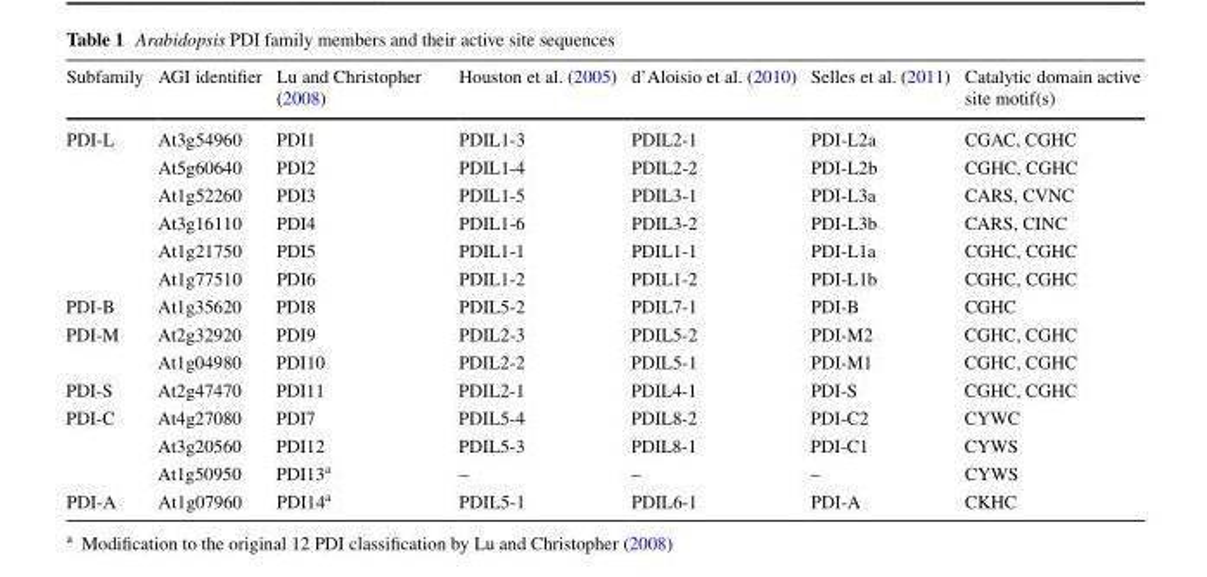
<table><thead><tr><td>Subfamily</td><td>AGI identifier</td><td>Lu and Christopher (2008)</td><td>Houston et al. (2005)</td><td>d’Aloisio et al. (2010)</td><td>Selles et al. (2011)</td><td>Catalytic domain active site motif(s)</td></tr></thead><tbody><tr><td rowspan="6">PDI-L</td><td>At3g54960</td><td>PDI1</td><td>PDIL1-3</td><td>PDIL2-1</td><td>PDI-L2a</td><td>CGAC, CGHC</td></tr><tr><td>At5g60640</td><td>PDI2</td><td>PDIL1-4</td><td>PDIL2-2</td><td>PDI-L2b</td><td>CGHC, CGHC</td></tr><tr><td>At1g52260</td><td>PDI3</td><td>PDIL1-5</td><td>PDIL3-1</td><td>PDI-L3a</td><td>CARS, CVNC</td></tr><tr><td>At3g16110</td><td>PDI4</td><td>PDIL1-6</td><td>PDIL3-2</td><td>PDI-L3b</td><td>CARS, CINC</td></tr><tr><td>At1g21750</td><td>PDI5</td><td>PDIL1-1</td><td>PDIL1-1</td><td>PDI-L1a</td><td>CGHC, CGHC</td></tr><tr><td>At1g77510</td><td>PDI6</td><td>PDIL1-2</td><td>PDIL1-2</td><td>PDI-L1b</td><td>CGHC, CGHC</td></tr><tr><td>PDI-B</td><td>At1g35620</td><td>PDI8</td><td>PDIL5-2</td><td>PDIL7-1</td><td>PDI-B</td><td>CGHC</td></tr><tr><td rowspan="2">PDI-M</td><td>At2g32920</td><td>PDI9</td><td>PDIL2-3</td><td>PDIL5-2</td><td>PDI-M2</td><td>CGHC, CGHC</td></tr><tr><td>At1g04980</td><td>PDI10</td><td>PDIL2-2</td><td>PDIL5-1</td><td>PDI-M1</td><td>CGHC, CGHC</td></tr><tr><td>PDI-S</td><td>At2g47470</td><td>PDI11</td><td>PDIL2-1</td><td>PDIL4-1</td><td>PDI-S</td><td>CGHC, CGHC</td></tr><tr><td rowspan="3">PDI-C</td><td>At4g27080</td><td>PDI7</td><td>PDIL5-4</td><td>PDIL8-2</td><td>PDI-C2</td><td>CYWC</td></tr><tr><td>At3g20560</td><td>PDI12</td><td>PDIL5-3</td><td>PDIL8-1</td><td>PDI-C1</td><td>CYWS</td></tr><tr><td>At1g50950</td><td>PDI13<sup>a</sup></td><td>–</td><td>–</td><td>–</td><td>CYWS</td></tr><tr><td>PDI-A</td><td>At1g07960</td><td>PDI14<sup>a</sup></td><td>PDIL5-1</td><td>PDIL6-1</td><td>PDI-A</td><td>CKHC</td></tr></tbody></table>